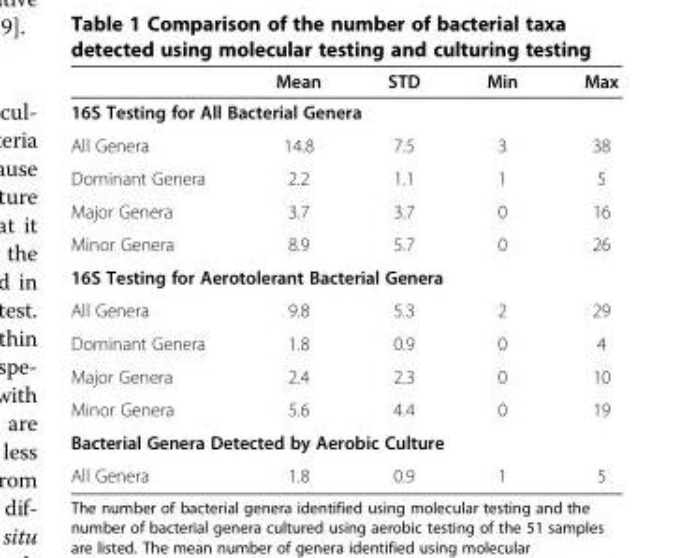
<table><thead><tr><td></td><td>Mean</td><td>STD</td><td>Min</td><td>Max</td></tr></thead><tbody><tr><td colspan="5">16S Testing for All Bacterial Genera</td></tr><tr><td>All Genera</td><td>14.8</td><td>7.5</td><td>3</td><td>38</td></tr><tr><td>Dominant Genera</td><td>2.2</td><td>1.1</td><td>1</td><td>5</td></tr><tr><td>Major Genera</td><td>3.7</td><td>3.7</td><td>0</td><td>16</td></tr><tr><td>Minor Genera</td><td>8.9</td><td>5.7</td><td>0</td><td>26</td></tr><tr><td colspan="5">16S Testing for Aerotolerant Bacterial Genera</td></tr><tr><td>All Genera</td><td>9.8</td><td>5.3</td><td>2</td><td>29</td></tr><tr><td>Dominant Genera</td><td>1.8</td><td>0.9</td><td>0</td><td>4</td></tr><tr><td>Major Genera</td><td>2.4</td><td>2.3</td><td>0</td><td>10</td></tr><tr><td>Minor Genera</td><td>5.6</td><td>4.4</td><td>0</td><td>19</td></tr><tr><td colspan="5">Bacterial Genera Detected by Aerobic Culture</td></tr><tr><td>All Genera</td><td>1.8</td><td>0.9</td><td>1</td><td>5</td></tr></tbody></table>